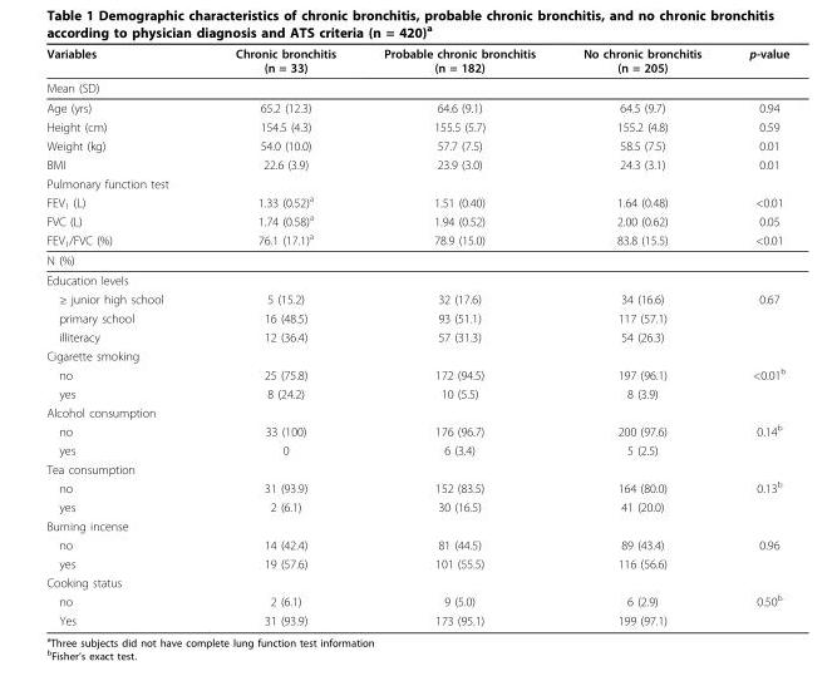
<table><thead><tr><td>Variables</td><td>Chronic bronchitis (n = 33)</td><td>Probable chronic bronchitis (n = 182)</td><td>No chronic bronchitis (n = 205)</td><td>p-value</td></tr></thead><tbody><tr><td colspan="5">Mean (SD)</td></tr><tr><td>Age (yrs)</td><td>65.2 (12.3)</td><td>64.6 (9.1)</td><td>64.5 (9.7)</td><td>0.94</td></tr><tr><td>Height (cm)</td><td>154.5 (4.3)</td><td>155.5 (5.7)</td><td>155.2 (4.8)</td><td>0.59</td></tr><tr><td>Weight (kg)</td><td>54.0 (10.0)</td><td>57.7 (7.5)</td><td>58.5 (7.5)</td><td>0.01</td></tr><tr><td>BMI</td><td>22.6 (3.9)</td><td>23.9 (3.0)</td><td>24.3 (3.1)</td><td>0.01</td></tr><tr><td colspan="5">Pulmonary function test</td></tr><tr><td>FEV<sub>1</sub> (L)</td><td>1.33 (0.52)<sup>a</sup></td><td>1.51 (0.40)</td><td>1.64 (0.48)</td><td>&lt;0.01</td></tr><tr><td>FVC (L)</td><td>1.74 (0.58)<sup>a</sup></td><td>1.94 (0.52)</td><td>2.00 (0.62)</td><td>0.05</td></tr><tr><td>FEV<sub>1</sub>/FVC (%)</td><td>76.1 (17.1)<sup>a</sup></td><td>78.9 (15.0)</td><td>83.8 (15.5)</td><td>&lt;0.01</td></tr><tr><td colspan="5">N (%)</td></tr><tr><td colspan="5">Education levels</td></tr><tr><td>≥ junior high school</td><td>5 (15.2)</td><td>32 (17.6)</td><td>34 (16.6)</td><td>0.67</td></tr><tr><td>primary school</td><td>16 (48.5)</td><td>93 (51.1)</td><td>117 (57.1)</td><td></td></tr><tr><td>illiteracy</td><td>12 (36.4)</td><td>57 (31.3)</td><td>54 (26.3)</td><td></td></tr><tr><td colspan="5">Cigarette smoking</td></tr><tr><td>no</td><td>25 (75.8)</td><td>172 (94.5)</td><td>197 (96.1)</td><td>&lt;0.01<sup>b</sup></td></tr><tr><td>yes</td><td>8 (24.2)</td><td>10 (5.5)</td><td>8 (3.9)</td><td></td></tr><tr><td colspan="5">Alcohol consumption</td></tr><tr><td>no</td><td>33 (100)</td><td>176 (96.7)</td><td>200 (97.6)</td><td>0.14<sup>b</sup></td></tr><tr><td>yes</td><td>0</td><td>6 (3.4)</td><td>5 (2.5)</td><td></td></tr><tr><td colspan="5">Tea consumption</td></tr><tr><td>no</td><td>31 (93.9)</td><td>152 (83.5)</td><td>164 (80.0)</td><td>0.13<sup>b</sup></td></tr><tr><td>yes</td><td>2 (6.1)</td><td>30 (16.5)</td><td>41 (20.0)</td><td></td></tr><tr><td colspan="5">Burning incense</td></tr><tr><td>no</td><td>14 (42.4)</td><td>81 (44.5)</td><td>89 (43.4)</td><td>0.96</td></tr><tr><td>yes</td><td>19 (57.6)</td><td>101 (55.5)</td><td>116 (56.6)</td><td></td></tr><tr><td colspan="5">Cooking status</td></tr><tr><td>no</td><td>2 (6.1)</td><td>9 (5.0)</td><td>6 (2.9)</td><td>0.50<sup>b</sup></td></tr><tr><td>Yes</td><td>31 (93.9)</td><td>173 (95.1)</td><td>199 (97.1)</td><td></td></tr></tbody></table>